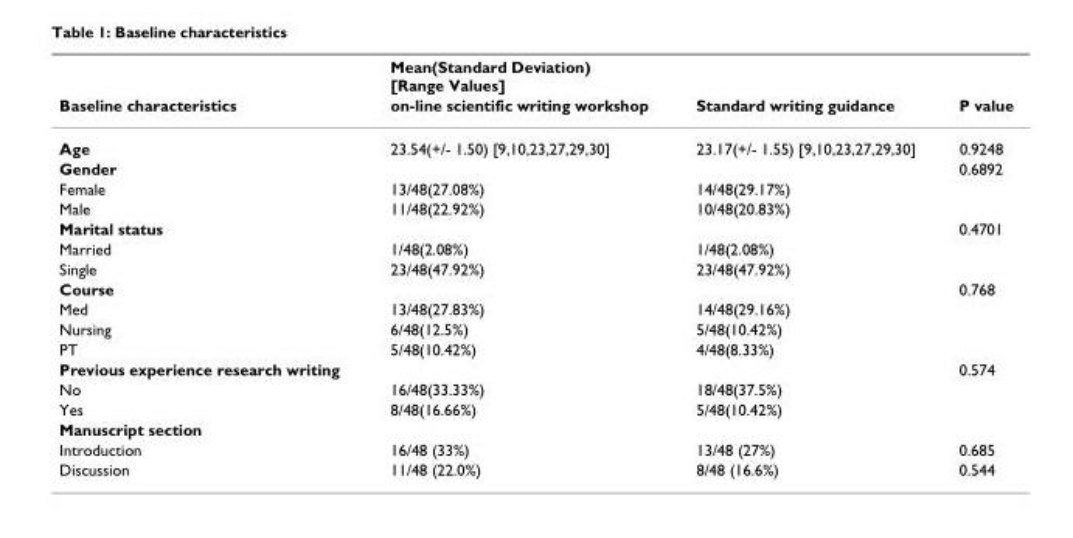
<table><thead><tr><td rowspan="2">Baseline characteristics</td><td colspan="3">Mean(Standard Deviation) [Range Values]</td></tr><tr><td>on-line scientific writing workshop</td><td>Standard writing guidance</td><td>P value</td></tr></thead><tbody><tr><td>Age</td><td>23.54(+/- 1.50) [9,10,23,27,29,30]</td><td>23.17(+/- 1.55) [9,10,23,27,29,30]</td><td>0.9248</td></tr><tr><td>Gender</td><td></td><td></td><td>0.6892</td></tr><tr><td>Female</td><td>13/48(27.08%)</td><td>14/48(29.17%)</td><td></td></tr><tr><td>Male</td><td>11/48(22.92%)</td><td>10/48(20.83%)</td><td></td></tr><tr><td>Marital status</td><td></td><td></td><td>0.4701</td></tr><tr><td>Married</td><td>1/48(2.08%)</td><td>1/48(2.08%)</td><td></td></tr><tr><td>Single</td><td>23/48(47.92%)</td><td>23/48(47.92%)</td><td></td></tr><tr><td>Course</td><td></td><td></td><td>0.768</td></tr><tr><td>Med</td><td>13/48(27.83%)</td><td>14/48(29.16%)</td><td></td></tr><tr><td>Nursing</td><td>6/48(12.5%)</td><td>5/48(10.42%)</td><td></td></tr><tr><td>PT</td><td>5/48(10.42%)</td><td>4/48(8.33%)</td><td></td></tr><tr><td>Previous experience research writing</td><td></td><td></td><td>0.574</td></tr><tr><td>No</td><td>16/48(33.33%)</td><td>18/48(37.5%)</td><td></td></tr><tr><td>Yes</td><td>8/48(16.66%)</td><td>5/48(10.42%)</td><td></td></tr><tr><td colspan="4">Manuscript section</td></tr><tr><td>Introduction</td><td>16/48 (33%)</td><td>13/48 (27%)</td><td>0.685</td></tr><tr><td>Discussion</td><td>11/48 (22.0%)</td><td>8/48 (16.6%)</td><td>0.544</td></tr></tbody></table>